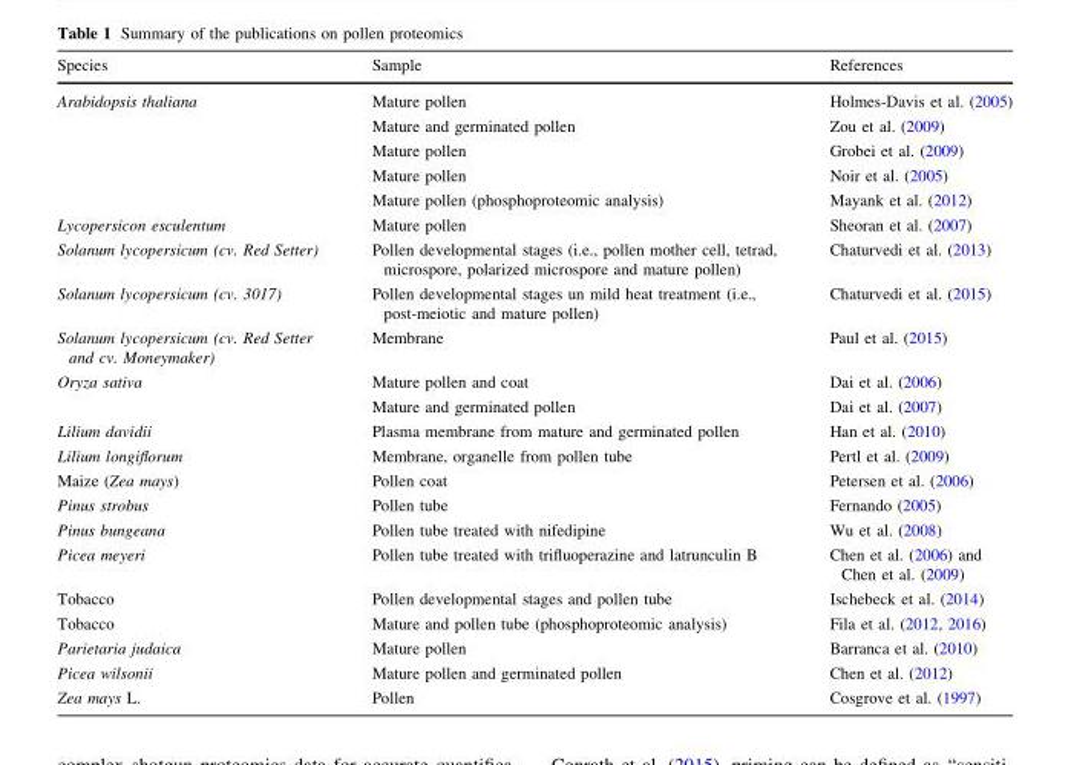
<table><thead><tr><td>Species</td><td>Sample</td><td>References</td></tr></thead><tbody><tr><td rowspan="5">Arabidopsis thaliana</td><td>Mature pollen</td><td>Holmes-Davis et al. (2005)</td></tr><tr><td>Mature and germinated pollen</td><td>Zou et al. (2009)</td></tr><tr><td>Mature pollen</td><td>Grobei et al. (2009)</td></tr><tr><td>Mature pollen</td><td>Noir et al. (2005)</td></tr><tr><td>Mature pollen (phosphoproteomic analysis)</td><td>Mayank et al. (2012)</td></tr><tr><td>Lycopersicon esculentum</td><td>Mature pollen</td><td>Sheoran et al. (2007)</td></tr><tr><td>Solanum lycopersicum (cv. Red Setter)</td><td>Pollen developmental stages (i.e., pollen mother cell, tetrad, microspore, polarized microspore and mature pollen)</td><td>Chaturvedi et al. (2013)</td></tr><tr><td>Solanum lycopersicum (cv. 3017)</td><td>Pollen developmental stages un mild heat treatment (i.e., post-meiotic and mature pollen)</td><td>Chaturvedi et al. (2015)</td></tr><tr><td>Solanum lycopersicum (cv. Red Setter and cv. Moneymaker)</td><td>Membrane</td><td>Paul et al. (2015)</td></tr><tr><td rowspan="2">Oryza sativa</td><td>Mature pollen and coat</td><td>Dai et al. (2006)</td></tr><tr><td>Mature and germinated pollen</td><td>Dai et al. (2007)</td></tr><tr><td>Lilium davidii</td><td>Plasma membrane from mature and germinated pollen</td><td>Han et al. (2010)</td></tr><tr><td>Lilium longiflorum</td><td>Membrane, organelle from pollen tube</td><td>Pertl et al. (2009)</td></tr><tr><td>Maize (Zea mays)</td><td>Pollen coat</td><td>Petersen et al. (2006)</td></tr><tr><td>Pinus strobus</td><td>Pollen tube</td><td>Fernando (2005)</td></tr><tr><td>Pinus bungeana</td><td>Pollen tube treated with nifedipine</td><td>Wu et al. (2008)</td></tr><tr><td>Picea meyeri</td><td>Pollen tube treated with trifluoperazine and latrunculin B</td><td>Chen et al. (2006) and Chen et al. (2009)</td></tr><tr><td>Tobacco</td><td>Pollen developmental stages and pollen tube</td><td>Ischebeck et al. (2014)</td></tr><tr><td>Tobacco</td><td>Mature and pollen tube (phosphoproteomic analysis)</td><td>Fila et al. (2012, 2016)</td></tr><tr><td>Parietaria judaica</td><td>Mature pollen</td><td>Barranca et al. (2010)</td></tr><tr><td>Picea wilsonii</td><td>Mature pollen and germinated pollen</td><td>Chen et al. (2012)</td></tr><tr><td>Zea mays L.</td><td>Pollen</td><td>Cosgrove et al. (1997)</td></tr></tbody></table>